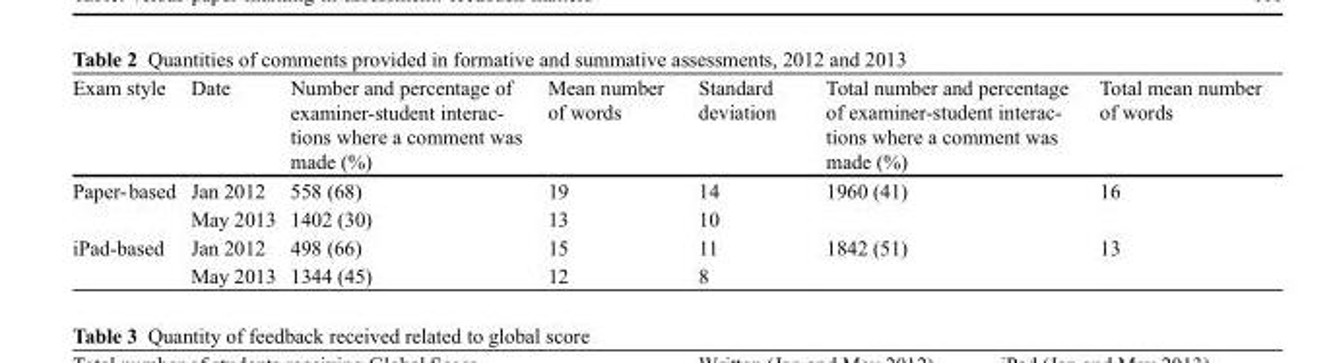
<table><thead><tr><td>Exam style</td><td>Date</td><td>Number and percentage of examiner-student interac- tions where a comment was made (%)</td><td>Mean number of words</td><td>Standard deviation</td><td>Total number and percentage of examiner-student interac- tions where a comment was made (%)</td><td>Total mean number of words</td></tr></thead><tbody><tr><td rowspan="2">Paper- based</td><td>Jan 2012</td><td>558 (68)</td><td>19</td><td>14</td><td rowspan="2">1960 (41)</td><td rowspan="2">16</td></tr><tr><td>May 2013</td><td>1402 (30)</td><td>13</td><td>10</td></tr><tr><td rowspan="2">iPad-based</td><td>Jan 2012</td><td>498 (66)</td><td>15</td><td>11</td><td rowspan="2">1842 (51)</td><td rowspan="2">13</td></tr><tr><td>May 2013</td><td>1344 (45)</td><td>12</td><td>8</td></tr></tbody></table>